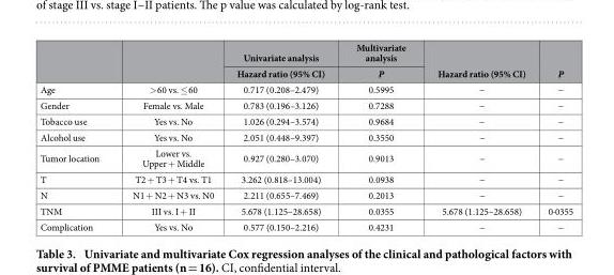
<table><thead><tr><td rowspan="2"></td><td rowspan="2"></td><td rowspan="2">Univariate analysis Hazard ratio (95% CI)</td><td rowspan="2">Multivariate analysis P</td><td rowspan="2">Hazard ratio (95% CI)</td><td rowspan="2">P</td></tr><tr></tr></thead><tbody><tr><td>Age</td><td>&gt; 60 vs. ≤ 60</td><td>0.717 (0.208–2.479)</td><td>0.5995</td><td>−</td><td>−</td></tr><tr><td>Gender</td><td>Female vs. Male</td><td>0.783 (0.196–3.126)</td><td>0.7288</td><td>−</td><td>−</td></tr><tr><td>Tobacco use</td><td>Yes vs. No</td><td>1.026 (0.294–3.574)</td><td>0.9684</td><td>−</td><td>−</td></tr><tr><td>Alcohol use</td><td>Yes vs. No</td><td>2.051 (0.448–9.397)</td><td>0.3550</td><td>−</td><td>−</td></tr><tr><td>Tumor location</td><td>Lower vs. Upper + Middle</td><td>0.927 (0.280–3.070)</td><td>0.9013</td><td>−</td><td>−</td></tr><tr><td>T</td><td>T2 + T3 + T4 vs. T1</td><td>3.262 (0.818–13.004)</td><td>0.0938</td><td>−</td><td>−</td></tr><tr><td>N</td><td>N1 + N2 + N3 vs. N0</td><td>2.211 (0.655–7.469)</td><td>0.2013</td><td>−</td><td>−</td></tr><tr><td>TNM</td><td>III vs. I + II</td><td>5.678 (1.125–28.658)</td><td>0.0355</td><td>5.678 (1.125–28.658)</td><td>0·0355</td></tr><tr><td>Complication</td><td>Yes vs. No</td><td>0.577 (0.150–2.216)</td><td>0.4231</td><td>−</td><td>−</td></tr></tbody></table>